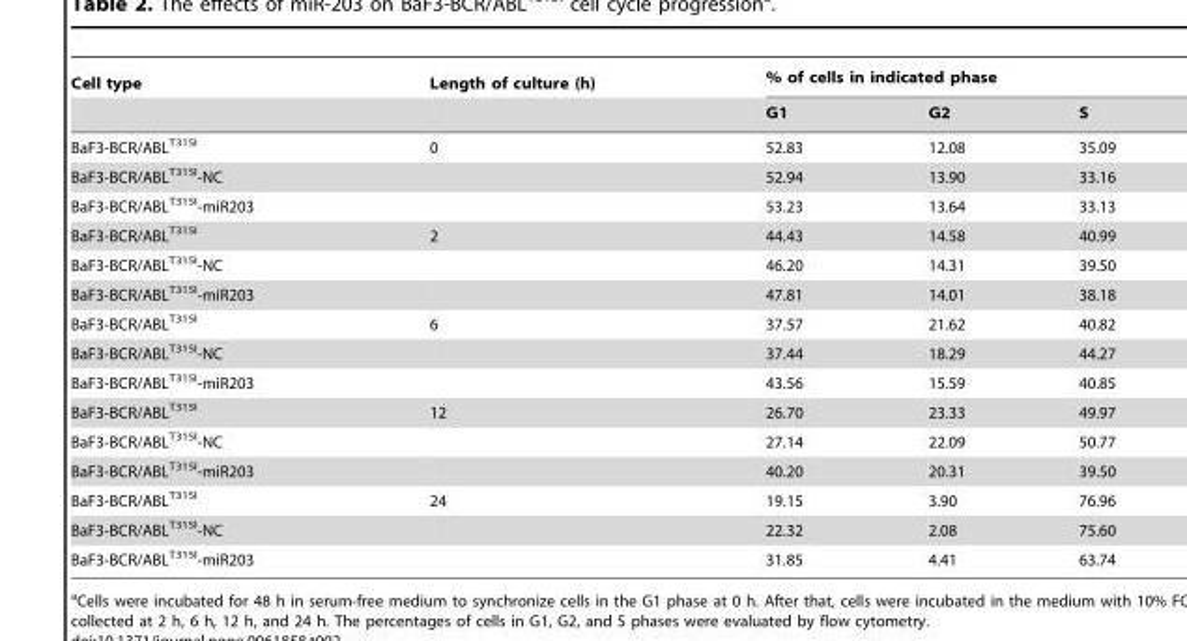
<table><thead><tr><td rowspan="2">Cell type</td><td rowspan="2">Length of culture (h)</td><td colspan="3">% of cells in indicated phase</td></tr><tr><td>G1</td><td>G2</td><td>S</td></tr></thead><tbody><tr><td>BaF3-BCR/ABL<sup>T315I</sup></td><td>0</td><td>52.83</td><td>12.08</td><td>35.09</td></tr><tr><td>BaF3-BCR/ABL<sup>T315I</sup>-NC</td><td></td><td>52.94</td><td>13.90</td><td>33.16</td></tr><tr><td>BaF3-BCR/ABL<sup>T315I</sup>-miR203</td><td></td><td>53.23</td><td>13.64</td><td>33.13</td></tr><tr><td>BaF3-BCR/ABL<sup>T315I</sup></td><td>2</td><td>44.43</td><td>14.58</td><td>40.99</td></tr><tr><td>BaF3-BCR/ABL<sup>T315I</sup>-NC</td><td></td><td>46.20</td><td>14.31</td><td>39.50</td></tr><tr><td>BaF3-BCR/ABL<sup>T315I</sup>-miR203</td><td></td><td>47.81</td><td>14.01</td><td>38.18</td></tr><tr><td>BaF3-BCR/ABL<sup>T315I</sup></td><td>6</td><td>37.57</td><td>21.62</td><td>40.82</td></tr><tr><td>BaF3-BCR/ABL<sup>T315I</sup>-NC</td><td></td><td>37.44</td><td>18.29</td><td>44.27</td></tr><tr><td>BaF3-BCR/ABL<sup>T315I</sup>-miR203</td><td></td><td>43.56</td><td>15.59</td><td>40.85</td></tr><tr><td>BaF3-BCR/ABL<sup>T315I</sup></td><td>12</td><td>26.70</td><td>23.33</td><td>49.97</td></tr><tr><td>BaF3-BCR/ABL<sup>T315I</sup>-NC</td><td></td><td>27.14</td><td>22.09</td><td>50.77</td></tr><tr><td>BaF3-BCR/ABL<sup>T315I</sup>-miR203</td><td></td><td>40.20</td><td>20.31</td><td>39.50</td></tr><tr><td>BaF3-BCR/ABL<sup>T315I</sup></td><td>24</td><td>19.15</td><td>3.90</td><td>76.96</td></tr><tr><td>BaF3-BCR/ABL<sup>T315I</sup>-NC</td><td></td><td>22.32</td><td>2.08</td><td>75.60</td></tr><tr><td>BaF3-BCR/ABL<sup>T315I</sup>-miR203</td><td></td><td>31.85</td><td>4.41</td><td>63.74</td></tr></tbody></table>